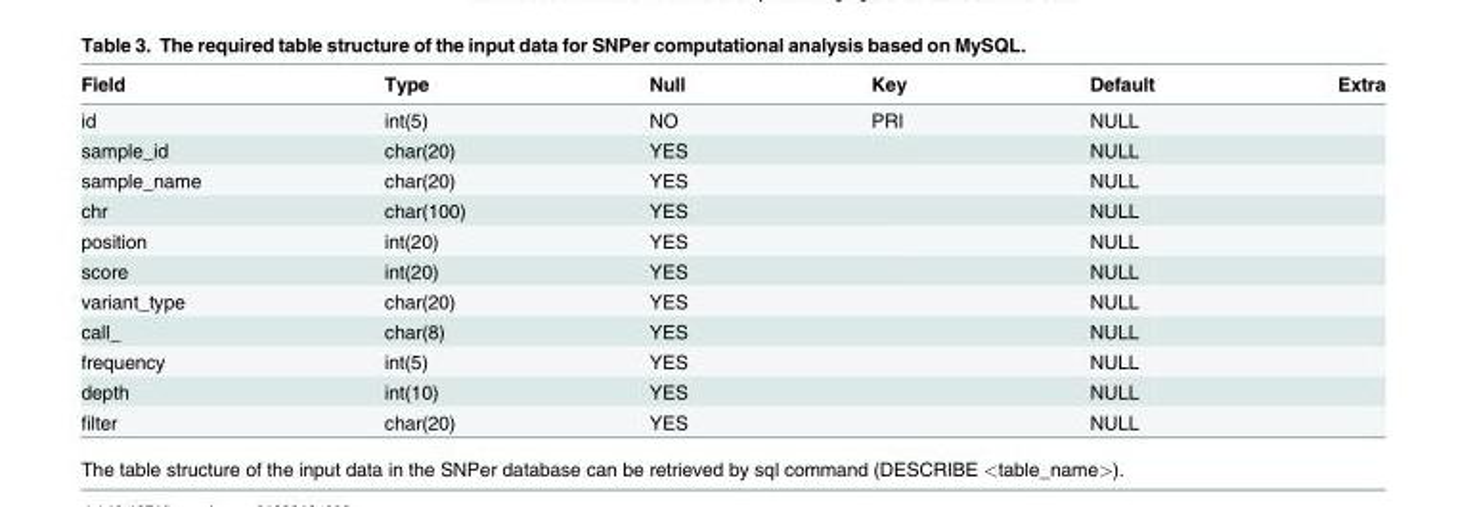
<table><thead><tr><td>Field</td><td>Type</td><td>Null</td><td>Key</td><td>Default</td><td>Extra</td></tr></thead><tbody><tr><td>id</td><td>int(5)</td><td>NO</td><td>PRI</td><td>NULL</td><td></td></tr><tr><td>sample_id</td><td>char(20)</td><td>YES</td><td></td><td>NULL</td><td></td></tr><tr><td>sample_name</td><td>char(20)</td><td>YES</td><td></td><td>NULL</td><td></td></tr><tr><td>chr</td><td>char(100)</td><td>YES</td><td></td><td>NULL</td><td></td></tr><tr><td>position</td><td>int(20)</td><td>YES</td><td></td><td>NULL</td><td></td></tr><tr><td>score</td><td>int(20)</td><td>YES</td><td></td><td>NULL</td><td></td></tr><tr><td>variant_type</td><td>char(20)</td><td>YES</td><td></td><td>NULL</td><td></td></tr><tr><td>call_</td><td>char(8)</td><td>YES</td><td></td><td>NULL</td><td></td></tr><tr><td>frequency</td><td>int(5)</td><td>YES</td><td></td><td>NULL</td><td></td></tr><tr><td>depth</td><td>int(10)</td><td>YES</td><td></td><td>NULL</td><td></td></tr><tr><td>filter</td><td>char(20)</td><td>YES</td><td></td><td>NULL</td><td></td></tr></tbody></table>